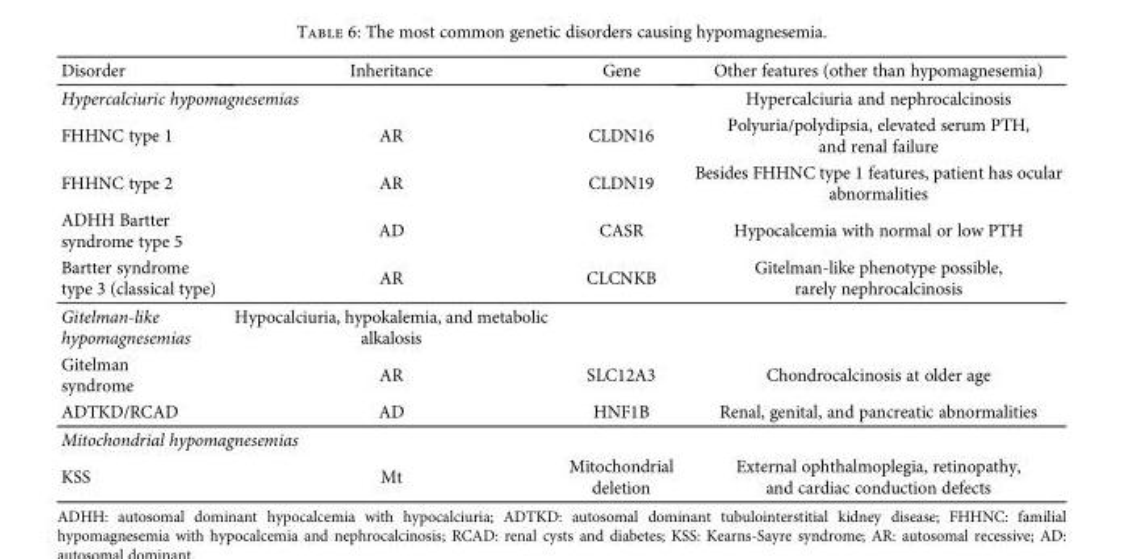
<table><thead><tr><td>Disorder</td><td>Inheritance</td><td>Gene</td><td>Other features (other than hypomagnesemia)</td></tr></thead><tbody><tr><td colspan="3">Hypercalciuric hypomagnesemias</td><td>Hypercalciuria and nephrocalcinosis</td></tr><tr><td>FHHNC type 1</td><td>AR</td><td>CLDN16</td><td>Polyuria/polydipsia, elevated serum PTH, and renal failure</td></tr><tr><td>FHHNC type 2</td><td>AR</td><td>CLDN19</td><td>Besides FHHNC type 1 features, patient has ocular abnormalities</td></tr><tr><td>ADHH Bartter syndrome type 5</td><td>AD</td><td>CASR</td><td>Hypocalcemia with normal or low PTH</td></tr><tr><td>Bartter syndrome type 3 (classical type)</td><td>AR</td><td>CLCNKB</td><td>Gitelman-like phenotype possible, rarely nephrocalcinosis</td></tr><tr><td>Gitelman-like hypomagnesemias</td><td>Hypocalciuria, hypokalemia, and metabolic alkalosis</td><td></td><td></td></tr><tr><td>Gitelman syndrome</td><td>AR</td><td>SLC12A3</td><td>Chondrocalcinosis at older age</td></tr><tr><td>ADTKD/RCAD</td><td>AD</td><td>HNF1B</td><td>Renal, genital, and pancreatic abnormalities</td></tr><tr><td colspan="4">Mitochondrial hypomagnesemias</td></tr><tr><td>KSS</td><td>Mt</td><td>Mitochondrial deletion</td><td>External ophthalmoplegia, retinopathy, and cardiac conduction defects</td></tr></tbody></table>